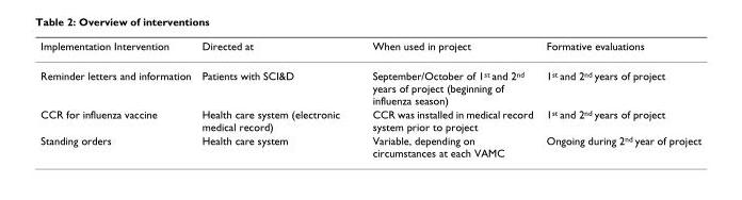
<table><thead><tr><td>Implementation Intervention</td><td>Directed at</td><td>When used in project</td><td>Formative evaluations</td></tr></thead><tbody><tr><td>Reminder letters and information</td><td>Patients with SCI&amp;D</td><td>September/October of 1<sup>st</sup> and 2<sup>nd</sup> years of project (beginning of influenza season)</td><td>1<sup>st</sup> and 2<sup>nd</sup> years of project</td></tr><tr><td>CCR for influenza vaccine</td><td>Health care system (electronic medical record)</td><td>CCR was installed in medical record system prior to project</td><td>1<sup>st</sup> and 2<sup>nd</sup> years of project</td></tr><tr><td>Standing orders</td><td>Health care system</td><td>Variable, depending on circumstances at each VAMC</td><td>Ongoing during 2<sup>nd</sup> year of project</td></tr></tbody></table>